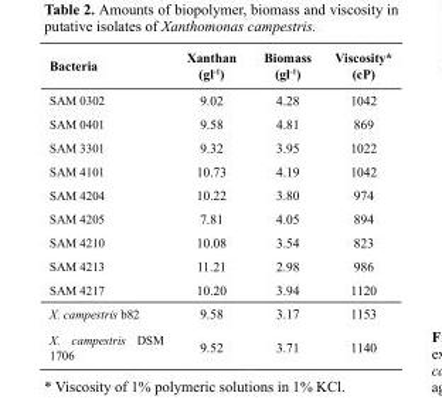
<table><thead><tr><td>Bacteria</td><td>Xanthan (gl<sup>-1</sup>)</td><td>Biomass (gl<sup>-</sup>1)</td><td>Viscosity* (cP)</td></tr></thead><tbody><tr><td>SAM 0302</td><td>9.02</td><td>4.28</td><td>1042</td></tr><tr><td>SAM 0401</td><td>9.58</td><td>4.81</td><td>869</td></tr><tr><td>SAM 3301</td><td>9.32</td><td>3.95</td><td>1022</td></tr><tr><td>SAM 4101</td><td>10.73</td><td>4.19</td><td>1042</td></tr><tr><td>SAM 4204</td><td>10.22</td><td>3.80</td><td>974</td></tr><tr><td>SAM 4205</td><td>7.81</td><td>4.05</td><td>894</td></tr><tr><td>SAM 4210</td><td>10.08</td><td>3.54</td><td>823</td></tr><tr><td>SAM 4213</td><td>11.21</td><td>2.98</td><td>986</td></tr><tr><td>SAM 4217</td><td>10.20</td><td>3.94</td><td>1120</td></tr><tr><td>X. campestris b82</td><td>9.58</td><td>3.17</td><td>1153</td></tr><tr><td>X. campestris DSM 1706</td><td>9.52</td><td>3.71</td><td>1140</td></tr></tbody></table>